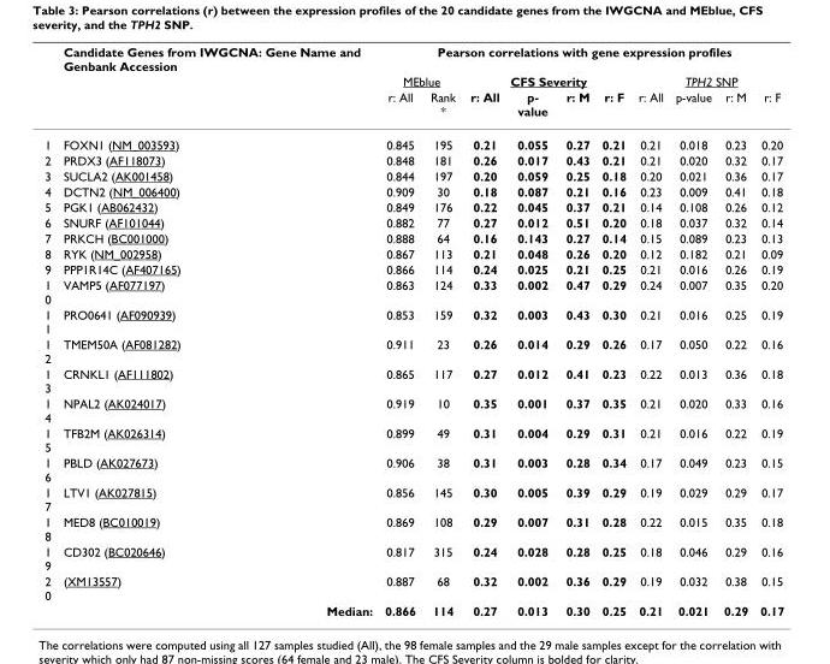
<table><thead><tr><td rowspan="3"></td><td rowspan="3">Candidate Genes from IWGCNA: Gene Name and Genbank Accession</td><td colspan="10">Pearson correlations with gene expression profiles</td></tr><tr><td colspan="2">MEblue</td><td colspan="4">CFS Severity</td><td colspan="4">TPH2 SNP</td></tr><tr><td>r: All</td><td>Rank *</td><td>r: All</td><td>p- value</td><td>r: M</td><td>r: F</td><td>r: All</td><td>p-value</td><td>r: M</td><td>r: F</td></tr></thead><tbody><tr><td>1</td><td>FOXN1 (NM_003593)</td><td>0.845</td><td>195</td><td>0.21</td><td>0.055</td><td>0.27</td><td>0.21</td><td>0.21</td><td>0.018</td><td>0.23</td><td>0.20</td></tr><tr><td>2</td><td>PRDX3 (AF118073)</td><td>0.848</td><td>181</td><td>0.26</td><td>0.017</td><td>0.43</td><td>0.21</td><td>0.21</td><td>0.020</td><td>0.32</td><td>0.17</td></tr><tr><td>3</td><td>SUCLA2 (AK001458)</td><td>0.844</td><td>197</td><td>0.20</td><td>0.059</td><td>0.25</td><td>0.18</td><td>0.20</td><td>0.021</td><td>0.36</td><td>0.17</td></tr><tr><td>4</td><td>DCTN2 (NM_006400)</td><td>0.909</td><td>30</td><td>0.18</td><td>0.087</td><td>0.21</td><td>0.16</td><td>0.23</td><td>0.009</td><td>0.41</td><td>0.18</td></tr><tr><td>5</td><td>PGK1 (AB062432)</td><td>0.849</td><td>176</td><td>0.22</td><td>0.045</td><td>0.37</td><td>0.21</td><td>0.14</td><td>0.108</td><td>0.26</td><td>0.12</td></tr><tr><td>6</td><td>SNURF (AF101044)</td><td>0.882</td><td>77</td><td>0.27</td><td>0.012</td><td>0.51</td><td>0.20</td><td>0.18</td><td>0.037</td><td>0.32</td><td>0.14</td></tr><tr><td>7</td><td>PRKCH (BC001000)</td><td>0.888</td><td>64</td><td>0.16</td><td>0.143</td><td>0.27</td><td>0.14</td><td>0.15</td><td>0.089</td><td>0.23</td><td>0.13</td></tr><tr><td>8</td><td>RYK (NM_002958)</td><td>0.867</td><td>113</td><td>0.21</td><td>0.048</td><td>0.26</td><td>0.20</td><td>0.12</td><td>0.182</td><td>0.21</td><td>0.09</td></tr><tr><td>9</td><td>PPP1R14C (AF407165)</td><td>0.866</td><td>114</td><td>0.24</td><td>0.025</td><td>0.21</td><td>0.25</td><td>0.21</td><td>0.016</td><td>0.26</td><td>0.19</td></tr><tr><td>1 0</td><td>VAMP5 (AF077197)</td><td>0.863</td><td>124</td><td>0.33</td><td>0.002</td><td>0.47</td><td>0.29</td><td>0.24</td><td>0.007</td><td>0.35</td><td>0.20</td></tr><tr><td>1 1</td><td>PRO0641 (AF090939)</td><td>0.853</td><td>159</td><td>0.32</td><td>0.003</td><td>0.43</td><td>0.30</td><td>0.21</td><td>0.016</td><td>0.25</td><td>0.19</td></tr><tr><td>1 2</td><td>TMEM50A (AF081282)</td><td>0.911</td><td>23</td><td>0.26</td><td>0.014</td><td>0.29</td><td>0.26</td><td>0.17</td><td>0.050</td><td>0.22</td><td>0.16</td></tr><tr><td>1 3</td><td>CRNKL1 (AF111802)</td><td>0.865</td><td>117</td><td>0.27</td><td>0.012</td><td>0.41</td><td>0.23</td><td>0.22</td><td>0.013</td><td>0.36</td><td>0.18</td></tr><tr><td>1 4</td><td>NPAL2 (AK024017)</td><td>0.919</td><td>10</td><td>0.35</td><td>0.001</td><td>0.37</td><td>0.35</td><td>0.21</td><td>0.020</td><td>0.33</td><td>0.16</td></tr><tr><td>1 5</td><td>TFB2M (AK026314)</td><td>0.899</td><td>49</td><td>0.31</td><td>0.004</td><td>0.29</td><td>0.31</td><td>0.21</td><td>0.016</td><td>0.22</td><td>0.19</td></tr><tr><td>1 6</td><td>PBLD (AK027673)</td><td>0.906</td><td>38</td><td>0.31</td><td>0.003</td><td>0.28</td><td>0.34</td><td>0.17</td><td>0.049</td><td>0.23</td><td>0.15</td></tr><tr><td>1 7</td><td>LTV1 (AK027815)</td><td>0.856</td><td>145</td><td>0.30</td><td>0.005</td><td>0.39</td><td>0.29</td><td>0.19</td><td>0.029</td><td>0.29</td><td>0.17</td></tr><tr><td>1 8</td><td>MED8 (BC010019)</td><td>0.869</td><td>108</td><td>0.29</td><td>0.007</td><td>0.31</td><td>0.28</td><td>0.22</td><td>0.015</td><td>0.35</td><td>0.18</td></tr><tr><td>1 9</td><td>CD302 (BC020646)</td><td>0.817</td><td>315</td><td>0.24</td><td>0.028</td><td>0.28</td><td>0.25</td><td>0.18</td><td>0.046</td><td>0.29</td><td>0.16</td></tr><tr><td rowspan="2">2 0</td><td>(XM13557)</td><td>0.887</td><td>68</td><td>0.32</td><td>0.002</td><td>0.36</td><td>0.29</td><td>0.19</td><td>0.032</td><td>0.38</td><td>0.15</td></tr><tr><td>Median:</td><td>0.866</td><td>114</td><td>0.27</td><td>0.013</td><td>0.30</td><td>0.25</td><td>0.21</td><td>0.021</td><td>0.29</td><td>0.17</td></tr></tbody></table>